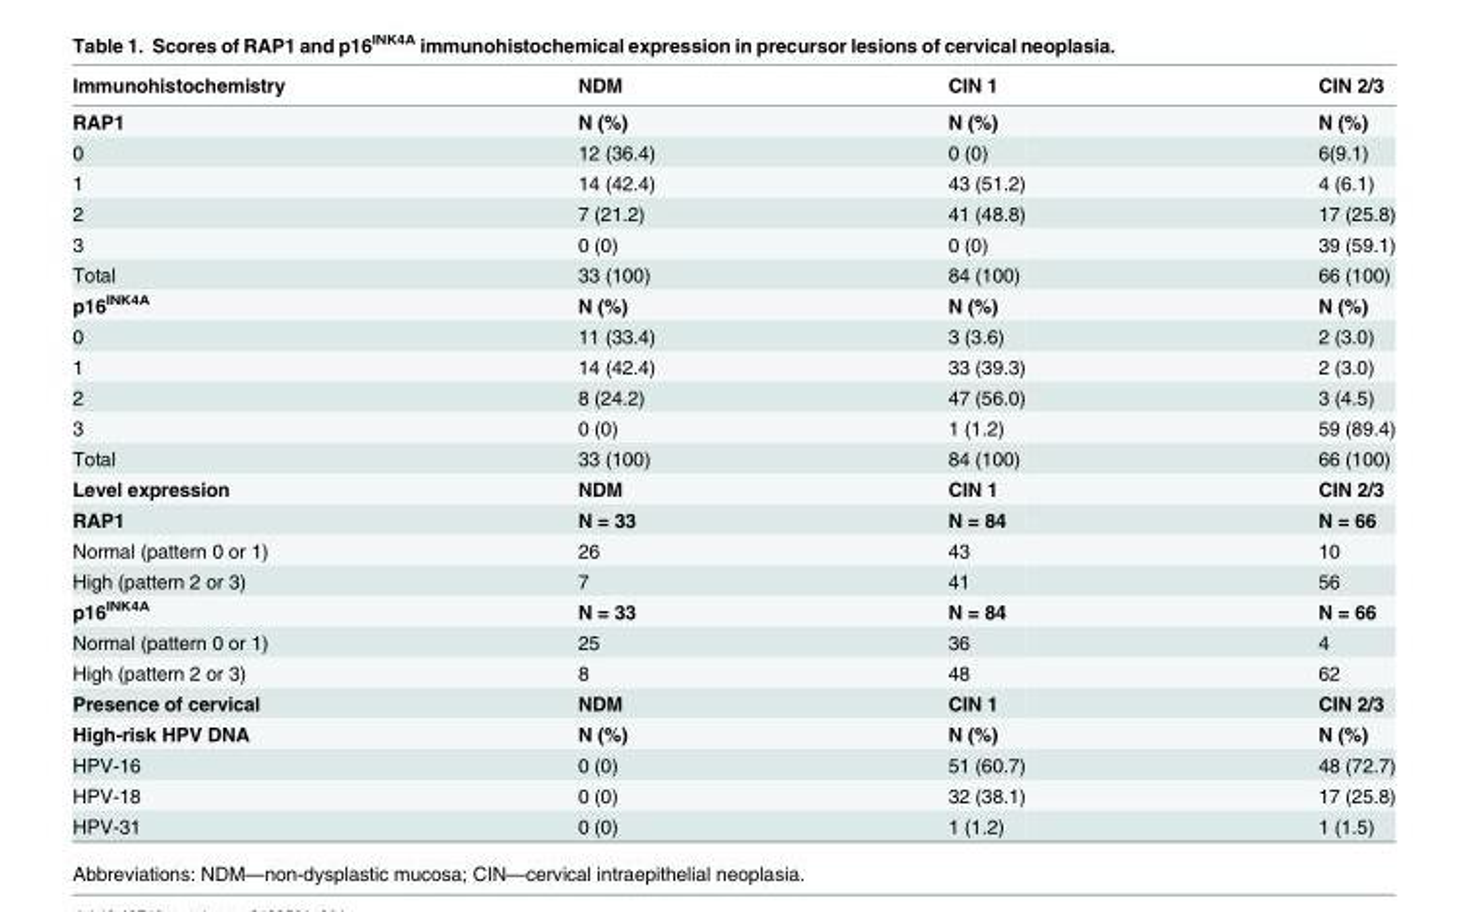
<table><thead><tr><td>Immunohistochemistry</td><td>NDM</td><td>CIN 1</td><td>CIN 2/3</td></tr></thead><tbody><tr><td>RAP1</td><td>N (%)</td><td>N (%)</td><td>N (%)</td></tr><tr><td>0</td><td>12 (36.4)</td><td>0 (0)</td><td>6(9.1)</td></tr><tr><td>1</td><td>14 (42.4)</td><td>43 (51.2)</td><td>4 (6.1)</td></tr><tr><td>2</td><td>7 (21.2)</td><td>41 (48.8)</td><td>17 (25.8)</td></tr><tr><td>3</td><td>0 (0)</td><td>0 (0)</td><td>39 (59.1)</td></tr><tr><td>Total</td><td>33 (100)</td><td>84 (100)</td><td>66 (100)</td></tr><tr><td>p16<sup>INK4A</sup></td><td>N (%)</td><td>N (%)</td><td>N (%)</td></tr><tr><td>0</td><td>11 (33.4)</td><td>3 (3.6)</td><td>2 (3.0)</td></tr><tr><td>1</td><td>14 (42.4)</td><td>33 (39.3)</td><td>2 (3.0)</td></tr><tr><td>2</td><td>8 (24.2)</td><td>47 (56.0)</td><td>3 (4.5)</td></tr><tr><td>3</td><td>0 (0)</td><td>1 (1.2)</td><td>59 (89.4)</td></tr><tr><td>Total</td><td>33 (100)</td><td>84 (100)</td><td>66 (100)</td></tr><tr><td>Level expression</td><td>NDM</td><td>CIN 1</td><td>CIN 2/3</td></tr><tr><td>RAP1</td><td>N = 33</td><td>N = 84</td><td>N = 66</td></tr><tr><td>Normal (pattern 0 or 1)</td><td>26</td><td>43</td><td>10</td></tr><tr><td>High (pattern 2 or 3)</td><td>7</td><td>41</td><td>56</td></tr><tr><td>p16<sup>INK4A</sup></td><td>N = 33</td><td>N = 84</td><td>N = 66</td></tr><tr><td>Normal (pattern 0 or 1)</td><td>25</td><td>36</td><td>4</td></tr><tr><td>High (pattern 2 or 3)</td><td>8</td><td>48</td><td>62</td></tr><tr><td>Presence of cervical</td><td>NDM</td><td>CIN 1</td><td>CIN 2/3</td></tr><tr><td>High-risk HPV DNA</td><td>N (%)</td><td>N (%)</td><td>N (%)</td></tr><tr><td>HPV-16</td><td>0 (0)</td><td>51 (60.7)</td><td>48 (72.7)</td></tr><tr><td>HPV-18</td><td>0 (0)</td><td>32 (38.1)</td><td>17 (25.8)</td></tr><tr><td>HPV-31</td><td>0 (0)</td><td>1 (1.2)</td><td>1 (1.5)</td></tr></tbody></table>